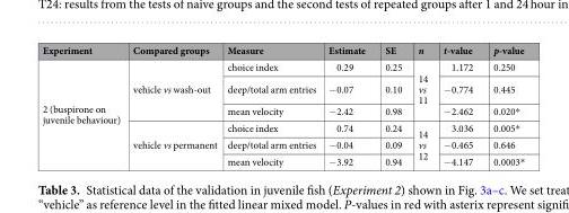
<table><thead><tr><td>Experiment</td><td>Compared groups</td><td>Measure</td><td>Estimate</td><td>SE</td><td>n</td><td>t-value</td><td>p-value</td></tr></thead><tbody><tr><td rowspan="6">2 (buspirone on juvenile behaviour)</td><td rowspan="3">vehicle vs wash-out</td><td>choice index</td><td>0.29</td><td>0.25</td><td rowspan="3">14 vs 11</td><td>1.172</td><td>0.250</td></tr><tr><td>deep/total arm entries</td><td>−0.07</td><td>0.10</td><td>−0.774</td><td>0.445</td></tr><tr><td>mean velocity</td><td>−2.42</td><td>0.98</td><td>−2.462</td><td>0.020*</td></tr><tr><td rowspan="3">vehicle vs permanent</td><td>choice index</td><td>0.74</td><td>0.24</td><td rowspan="3">14 vs 12</td><td>3.036</td><td>0.005*</td></tr><tr><td>deep/total arm entries</td><td>−0.04</td><td>0.09</td><td>−0.465</td><td>0.646</td></tr><tr><td>mean velocity</td><td>−3.92</td><td>0.94</td><td>−4.147</td><td>0.0003*</td></tr></tbody></table>